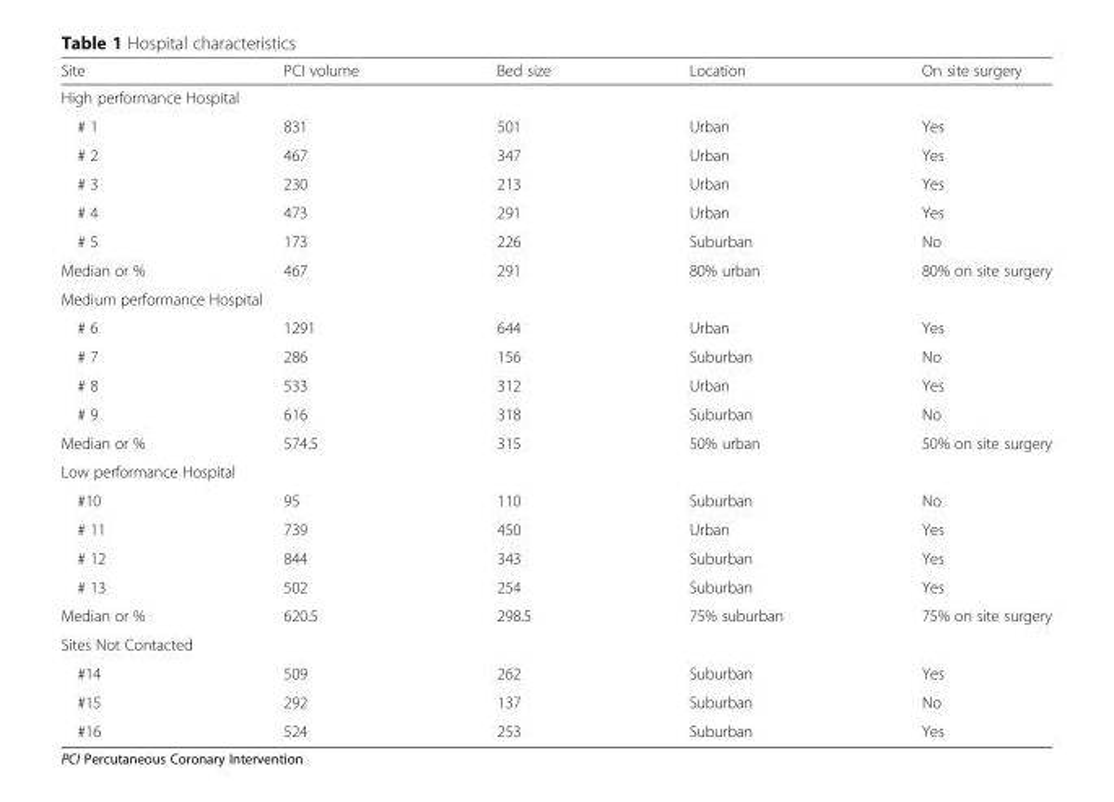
<table><thead><tr><td>Site</td><td>PCI volume</td><td>Bed size</td><td>Location</td><td>On site surgery</td></tr></thead><tbody><tr><td colspan="5">High performance Hospital</td></tr><tr><td># 1</td><td>831</td><td>501</td><td>Urban</td><td>Yes</td></tr><tr><td># 2</td><td>467</td><td>347</td><td>Urban</td><td>Yes</td></tr><tr><td># 3</td><td>230</td><td>213</td><td>Urban</td><td>Yes</td></tr><tr><td># 4</td><td>473</td><td>291</td><td>Urban</td><td>Yes</td></tr><tr><td># 5</td><td>173</td><td>226</td><td>Suburban</td><td>No</td></tr><tr><td>Median or %</td><td>467</td><td>291</td><td>80% urban</td><td>80% on site surgery</td></tr><tr><td colspan="5">Medium performance Hospital</td></tr><tr><td># 6</td><td>1291</td><td>644</td><td>Urban</td><td>Yes</td></tr><tr><td># 7</td><td>286</td><td>156</td><td>Suburban</td><td>No</td></tr><tr><td># 8</td><td>533</td><td>312</td><td>Urban</td><td>Yes</td></tr><tr><td># 9</td><td>616</td><td>318</td><td>Suburban</td><td>No</td></tr><tr><td>Median or %</td><td>574.5</td><td>315</td><td>50% urban</td><td>50% on site surgery</td></tr><tr><td colspan="5">Low performance Hospital</td></tr><tr><td>#10</td><td>95</td><td>110</td><td>Suburban</td><td>No</td></tr><tr><td># 11</td><td>739</td><td>450</td><td>Urban</td><td>Yes</td></tr><tr><td># 12</td><td>844</td><td>343</td><td>Suburban</td><td>Yes</td></tr><tr><td># 13</td><td>502</td><td>254</td><td>Suburban</td><td>Yes</td></tr><tr><td>Median or %</td><td>620.5</td><td>298.5</td><td>75% suburban</td><td>75% on site surgery</td></tr><tr><td colspan="5">Sites Not Contacted</td></tr><tr><td>#14</td><td>509</td><td>262</td><td>Suburban</td><td>Yes</td></tr><tr><td>#15</td><td>292</td><td>137</td><td>Suburban</td><td>No</td></tr><tr><td>#16</td><td>524</td><td>253</td><td>Suburban</td><td>Yes</td></tr></tbody></table>